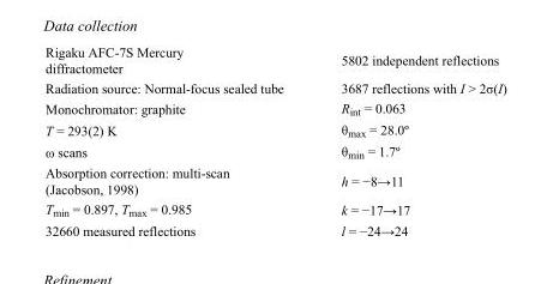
<table><tbody><tr><td>Rigaku AFC-7S Mercury diffractometer</td><td>5802 independent reflections</td></tr><tr><td>Radiation source: Normal-focus sealed tube</td><td>3687 reflections with I &gt; 2σ(I)</td></tr><tr><td>Monochromator: graphite</td><td>R<sub>int</sub> = 0.063</td></tr><tr><td>T = 293(2) K</td><td>θ<sub>max</sub> = 28.0º</td></tr><tr><td>ω scans</td><td>θ<sub>min</sub> = 1.7º</td></tr><tr><td>Absorption correction: multi-scan (Jacobson, 1998)</td><td>h = −8→11</td></tr><tr><td>T<sub>min</sub> = 0.897, T<sub>max</sub> = 0.985</td><td>k = −17→17</td></tr><tr><td>32660 measured reflections</td><td>l = −24→24</td></tr></tbody></table>